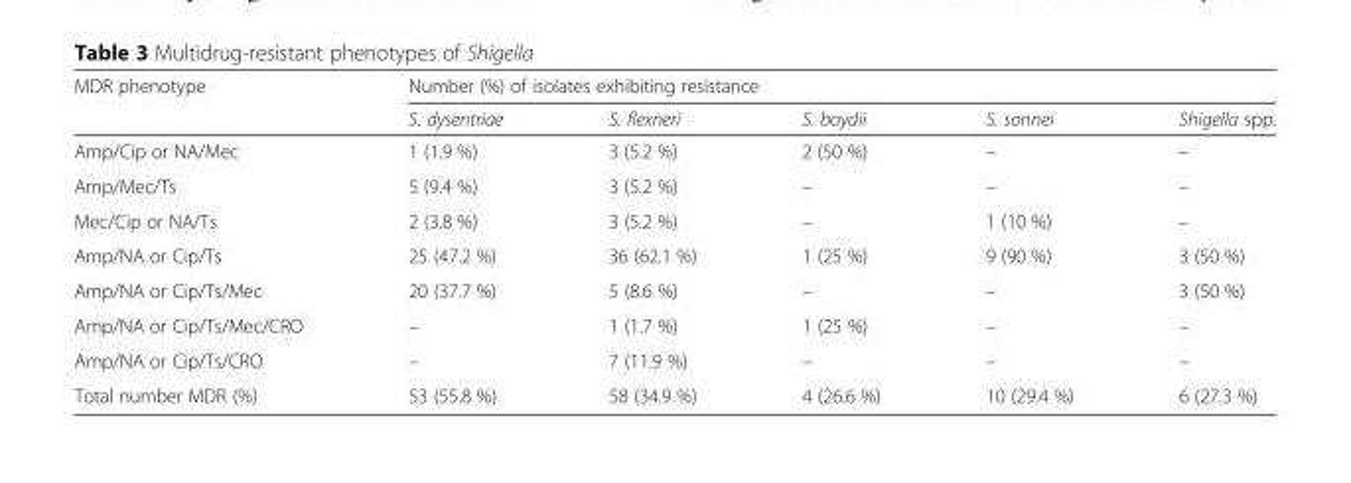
<table><thead><tr><td rowspan="2">MDR phenotype</td><td colspan="5">Number (%) of isolates exhibiting resistance</td></tr><tr><td>S. dysentriae</td><td>S. flexneri</td><td>S. boydii</td><td>S. sonnei</td><td>Shigella spp.</td></tr></thead><tbody><tr><td>Amp/Cip or NA/Mec</td><td>1 (1.9 %)</td><td>3 (5.2 %)</td><td>2 (50 %)</td><td>–</td><td>–</td></tr><tr><td>Amp/Mec/Ts</td><td>5 (9.4 %)</td><td>3 (5.2 %)</td><td>–</td><td>–</td><td>–</td></tr><tr><td>Mec/Cip or NA/Ts</td><td>2 (3.8 %)</td><td>3 (5.2 %)</td><td>–</td><td>1 (10 %)</td><td>–</td></tr><tr><td>Amp/NA or Cip/Ts</td><td>25 (47.2 %)</td><td>36 (62.1 %)</td><td>1 (25 %)</td><td>9 (90 %)</td><td>3 (50 %)</td></tr><tr><td>Amp/NA or Cip/Ts/Mec</td><td>20 (37.7 %)</td><td>5 (8.6 %)</td><td>–</td><td>–</td><td>3 (50 %)</td></tr><tr><td>Amp/NA or Cip/Ts/Mec/CRO</td><td>–</td><td>1 (1.7 %)</td><td>1 (25 %)</td><td>–</td><td>–</td></tr><tr><td>Amp/NA or Cip/Ts/CRO</td><td>–</td><td>7 (11.9 %)</td><td>–</td><td>–</td><td>–</td></tr><tr><td>Total number MDR (%)</td><td>53 (55.8 %)</td><td>58 (34.9 %)</td><td>4 (26.6 %)</td><td>10 (29.4 %)</td><td>6 (27.3 %)</td></tr></tbody></table>